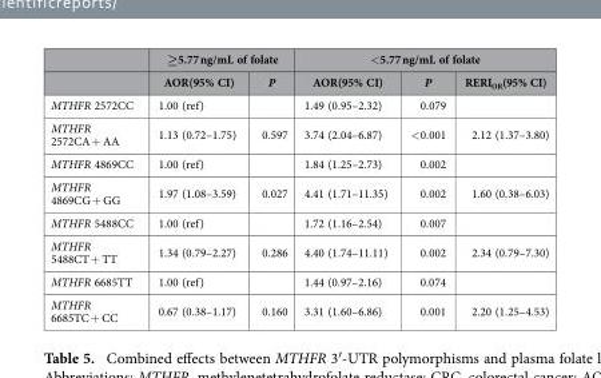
<table><thead><tr><td rowspan="2"></td><td colspan="2">≥5.77 ng/mL of folate</td><td colspan="3">&lt;5.77 ng/mL of folate</td></tr><tr><td>AOR(95% CI)</td><td>P</td><td>AOR(95% CI)</td><td>P</td><td>RERI<sub>OR</sub>(95% CI)</td></tr></thead><tbody><tr><td>MTHFR 2572CC</td><td>1.00 (ref)</td><td></td><td>1.49 (0.95–2.32)</td><td>0.079</td><td></td></tr><tr><td>MTHFR 2572CA + AA</td><td>1.13 (0.72–1.75)</td><td>0.597</td><td>3.74 (2.04–6.87)</td><td>&lt;0.001</td><td>2.12 (1.37–3.80)</td></tr><tr><td>MTHFR 4869CC</td><td>1.00 (ref)</td><td></td><td>1.84 (1.25–2.73)</td><td>0.002</td><td></td></tr><tr><td>MTHFR 4869CG + GG</td><td>1.97 (1.08–3.59)</td><td>0.027</td><td>4.41 (1.71–11.35)</td><td>0.002</td><td>1.60 (0.38–6.03)</td></tr><tr><td>MTHFR 5488CC</td><td>1.00 (ref)</td><td></td><td>1.72 (1.16–2.54)</td><td>0.007</td><td></td></tr><tr><td>MTHFR 5488CT + TT</td><td>1.34 (0.79–2.27)</td><td>0.286</td><td>4.40 (1.74–11.11)</td><td>0.002</td><td>2.34 (0.79–7.30)</td></tr><tr><td>MTHFR 6685TT</td><td>1.00 (ref)</td><td></td><td>1.44 (0.97–2.16)</td><td>0.074</td><td></td></tr><tr><td>MTHFR 6685TC + CC</td><td>0.67 (0.38–1.17)</td><td>0.160</td><td>3.31 (1.60–6.86)</td><td>0.001</td><td>2.20 (1.25–4.53)</td></tr></tbody></table>